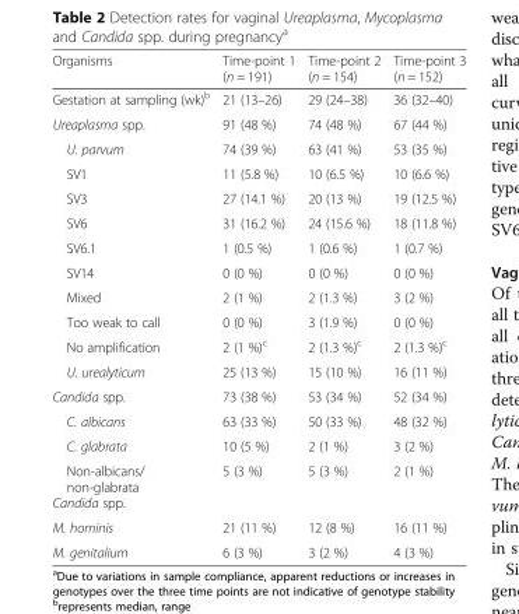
<table><thead><tr><td>Organisms</td><td>Time-point 1 (n = 191)</td><td>Time-point 2 (n = 154)</td><td>Time-point 3 (n = 152)</td></tr></thead><tbody><tr><td>Gestation at sampling (wk)<sup>b</sup></td><td>21 (13–26)</td><td>29 (24–38)</td><td>36 (32–40)</td></tr><tr><td>Ureaplasma spp.</td><td>91 (48 %)</td><td>74 (48 %)</td><td>67 (44 %)</td></tr><tr><td>U. parvum</td><td>74 (39 %)</td><td>63 (41 %)</td><td>53 (35 %)</td></tr><tr><td>SV1</td><td>11 (5.8 %)</td><td>10 (6.5 %)</td><td>10 (6.6 %)</td></tr><tr><td>SV3</td><td>27 (14.1 %)</td><td>20 (13 %)</td><td>19 (12.5 %)</td></tr><tr><td>SV6</td><td>31 (16.2 %)</td><td>24 (15.6 %)</td><td>18 (11.8 %)</td></tr><tr><td>SV6.1</td><td>1 (0.5 %)</td><td>1 (0.6 %)</td><td>1 (0.7 %)</td></tr><tr><td>SV14</td><td>0 (0 %)</td><td>0 (0 %)</td><td>0 (0 %)</td></tr><tr><td>Mixed</td><td>2 (1 %)</td><td>2 (1.3 %)</td><td>3 (2 %)</td></tr><tr><td>Too weak to call</td><td>0 (0 %)</td><td>3 (1.9 %)</td><td>0 (0 %)</td></tr><tr><td>No amplification</td><td>2 (1 %)<sup>c</sup></td><td>2 (1.3 %)<sup>c</sup></td><td>2 (1.3 %)<sup>c</sup></td></tr><tr><td>U. urealyticum</td><td>25 (13 %)</td><td>15 (10 %)</td><td>16 (11 %)</td></tr><tr><td>Candida spp.</td><td>73 (38 %)</td><td>53 (34 %)</td><td>52 (34 %)</td></tr><tr><td>C. albicans</td><td>63 (33 %)</td><td>50 (33 %)</td><td>48 (32 %)</td></tr><tr><td>C. glabrata</td><td>10 (5 %)</td><td>2 (1 %)</td><td>3 (2 %)</td></tr><tr><td>Non-albicans/ non-glabrata Candida spp.</td><td>5 (3 %)</td><td>5 (3 %)</td><td>2 (1 %)</td></tr><tr><td>M. hominis</td><td>21 (11 %)</td><td>12 (8 %)</td><td>16 (11 %)</td></tr><tr><td>M. genitalium</td><td>6 (3 %)</td><td>3 (2 %)</td><td>4 (3 %)</td></tr></tbody></table>